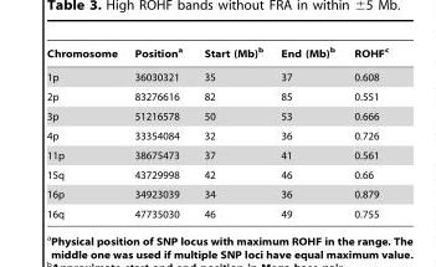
<table><thead><tr><td>Chromosome</td><td>Position<sup>a</sup></td><td>Start (Mb)<sup>b</sup></td><td>End (Mb)<sup>b</sup></td><td>ROHF<sup>c</sup></td></tr></thead><tbody><tr><td>1p</td><td>36030321</td><td>35</td><td>37</td><td>0.608</td></tr><tr><td>2p</td><td>83276616</td><td>82</td><td>85</td><td>0.551</td></tr><tr><td>3p</td><td>51216578</td><td>50</td><td>53</td><td>0.666</td></tr><tr><td>4p</td><td>33354084</td><td>32</td><td>36</td><td>0.726</td></tr><tr><td>11p</td><td>38675473</td><td>37</td><td>41</td><td>0.561</td></tr><tr><td>15q</td><td>43729998</td><td>42</td><td>46</td><td>0.66</td></tr><tr><td>16p</td><td>34923039</td><td>34</td><td>36</td><td>0.879</td></tr><tr><td>16q</td><td>47735030</td><td>46</td><td>49</td><td>0.755</td></tr></tbody></table>